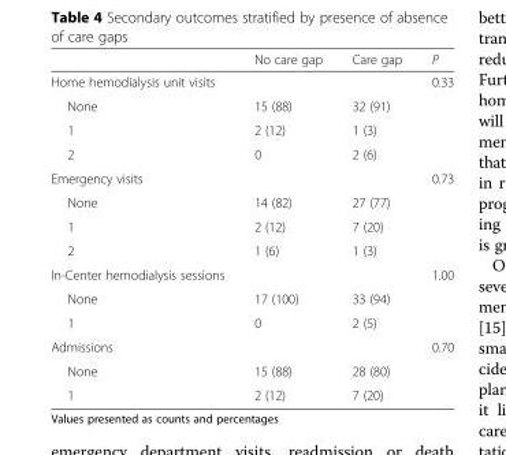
<table><thead><tr><td></td><td>No care gap</td><td>Care gap</td><td>P</td></tr></thead><tbody><tr><td>Home hemodialysis unit visits</td><td></td><td></td><td>0.33</td></tr><tr><td>None</td><td>15 (88)</td><td>32 (91)</td><td></td></tr><tr><td>1</td><td>2 (12)</td><td>1 (3)</td><td></td></tr><tr><td>2</td><td>0</td><td>2 (6)</td><td></td></tr><tr><td>Emergency visits</td><td></td><td></td><td>0.73</td></tr><tr><td>None</td><td>14 (82)</td><td>27 (77)</td><td></td></tr><tr><td>1</td><td>2 (12)</td><td>7 (20)</td><td></td></tr><tr><td>2</td><td>1 (6)</td><td>1 (3)</td><td></td></tr><tr><td>In-Center hemodialysis sessions</td><td></td><td></td><td>1.00</td></tr><tr><td>None</td><td>17 (100)</td><td>33 (94)</td><td></td></tr><tr><td>1</td><td>0</td><td>2 (5)</td><td></td></tr><tr><td>Admissions</td><td></td><td></td><td>0.70</td></tr><tr><td>None</td><td>15 (88)</td><td>28 (80)</td><td></td></tr><tr><td>1</td><td>2 (12)</td><td>7 (20)</td><td></td></tr></tbody></table>